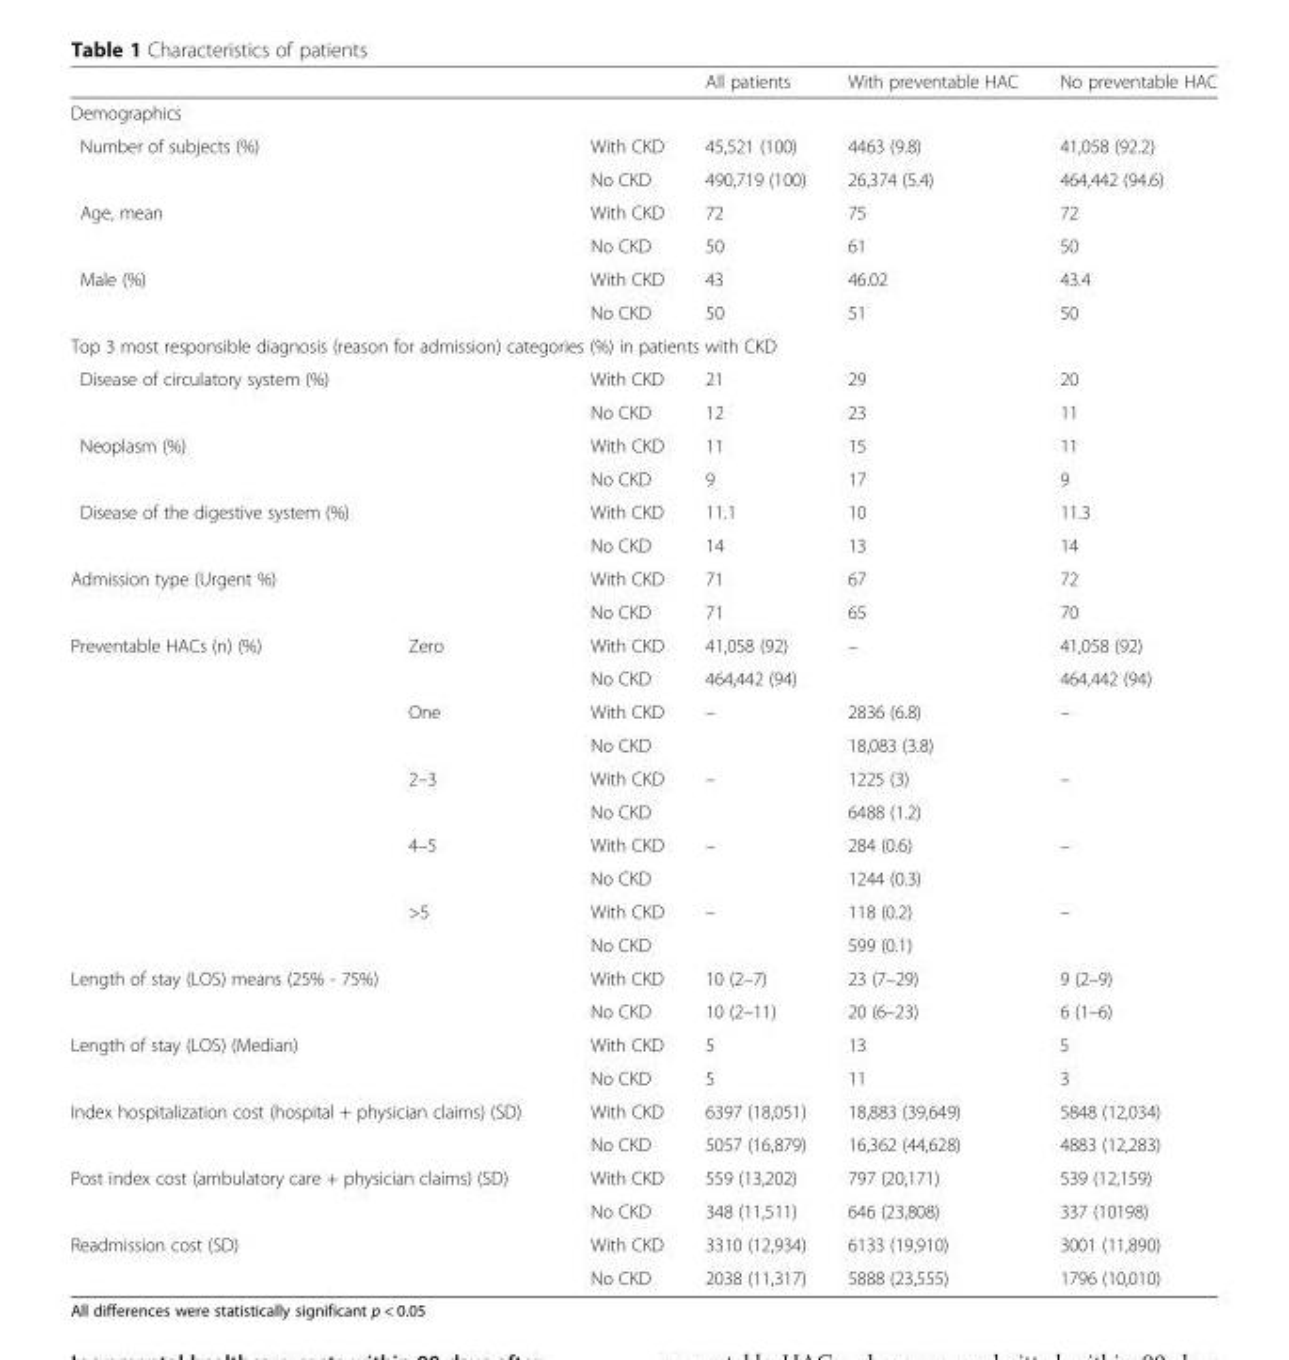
<table><thead><tr><td></td><td></td><td></td><td>All patients</td><td>With preventable HAC</td><td>No preventable HAC</td></tr></thead><tbody><tr><td colspan="6">Demographics</td></tr><tr><td rowspan="2" colspan="2">Number of subjects (%)</td><td>With CKD</td><td>45,521 (100)</td><td>4463 (9.8)</td><td>41,058 (92.2)</td></tr><tr><td>No CKD</td><td>490,719 (100)</td><td>26,374 (5.4)</td><td>464,442 (94.6)</td></tr><tr><td rowspan="2" colspan="2">Age, mean</td><td>With CKD</td><td>72</td><td>75</td><td>72</td></tr><tr><td>No CKD</td><td>50</td><td>61</td><td>50</td></tr><tr><td rowspan="2" colspan="2">Male (%)</td><td>With CKD</td><td>43</td><td>46.02</td><td>43.4</td></tr><tr><td>No CKD</td><td>50</td><td>51</td><td>50</td></tr><tr><td colspan="6">Top 3 most responsible diagnosis (reason for admission) categories (%) in patients with CKD</td></tr><tr><td rowspan="2" colspan="2">Disease of circulatory system (%)</td><td>With CKD</td><td>21</td><td>29</td><td>20</td></tr><tr><td>No CKD</td><td>12</td><td>23</td><td>11</td></tr><tr><td rowspan="2" colspan="2">Neoplasm (%)</td><td>With CKD</td><td>11</td><td>15</td><td>11</td></tr><tr><td>No CKD</td><td>9</td><td>17</td><td>9</td></tr><tr><td rowspan="2" colspan="2">Disease of the digestive system (%)</td><td>With CKD</td><td>11.1</td><td>10</td><td>11.3</td></tr><tr><td>No CKD</td><td>14</td><td>13</td><td>14</td></tr><tr><td rowspan="2" colspan="2">Admission type (Urgent %)</td><td>With CKD</td><td>71</td><td>67</td><td>72</td></tr><tr><td>No CKD</td><td>71</td><td>65</td><td>70</td></tr><tr><td rowspan="10">Preventable HACs (n) (%)</td><td>Zero</td><td>With CKD</td><td>41,058 (92)</td><td>–</td><td>41,058 (92)</td></tr><tr><td></td><td>No CKD</td><td>464,442 (94)</td><td></td><td>464,442 (94)</td></tr><tr><td>One</td><td>With CKD</td><td>–</td><td>2836 (6.8)</td><td>–</td></tr><tr><td></td><td>No CKD</td><td></td><td>18,083 (3.8)</td><td></td></tr><tr><td>2–3</td><td>With CKD</td><td>–</td><td>1225 (3)</td><td>–</td></tr><tr><td></td><td>No CKD</td><td></td><td>6488 (1.2)</td><td></td></tr><tr><td>4–5</td><td>With CKD</td><td>–</td><td>284 (0.6)</td><td>–</td></tr><tr><td></td><td>No CKD</td><td></td><td>1244 (0.3)</td><td></td></tr><tr><td>&gt;5</td><td>With CKD</td><td>–</td><td>118 (0.2)</td><td>–</td></tr><tr><td></td><td>No CKD</td><td></td><td>599 (0.1)</td><td></td></tr><tr><td rowspan="2" colspan="2">Length of stay (LOS) means (25% - 75%)</td><td>With CKD</td><td>10 (2–7)</td><td>23 (7–29)</td><td>9 (2–9)</td></tr><tr><td>No CKD</td><td>10 (2–11)</td><td>20 (6–23)</td><td>6 (1–6)</td></tr><tr><td rowspan="2" colspan="2">Length of stay (LOS) (Median)</td><td>With CKD</td><td>5</td><td>13</td><td>5</td></tr><tr><td>No CKD</td><td>5</td><td>11</td><td>3</td></tr><tr><td rowspan="2" colspan="2">Index hospitalization cost (hospital + physician claims) (SD)</td><td>With CKD</td><td>6397 (18,051)</td><td>18,883 (39,649)</td><td>5848 (12,034)</td></tr><tr><td>No CKD</td><td>5057 (16,879)</td><td>16,362 (44,628)</td><td>4883 (12,283)</td></tr><tr><td rowspan="2" colspan="2">Post index cost (ambulatory care + physician claims) (SD)</td><td>With CKD</td><td>559 (13,202)</td><td>797 (20,171)</td><td>539 (12,159)</td></tr><tr><td>No CKD</td><td>348 (11,511)</td><td>646 (23,808)</td><td>337 (10198)</td></tr><tr><td rowspan="2" colspan="2">Readmission cost (SD)</td><td>With CKD</td><td>3310 (12,934)</td><td>6133 (19,910)</td><td>3001 (11,890)</td></tr><tr><td>No CKD</td><td>2038 (11,317)</td><td>5888 (23,555)</td><td>1796 (10,010)</td></tr></tbody></table>